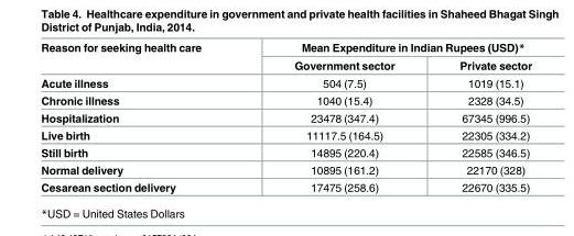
<table><thead><tr><td rowspan="2">Reason for seeking health care</td><td colspan="2">Mean Expenditure in Indian Rupees (USD)*</td></tr><tr><td>Government sector</td><td>Private sector</td></tr></thead><tbody><tr><td>Acute illness</td><td>504 (7.5)</td><td>1019 (15.1)</td></tr><tr><td>Chronic illness</td><td>1040 (15.4)</td><td>2328 (34.5)</td></tr><tr><td>Hospitalization</td><td>23478 (347.4)</td><td>67345 (996.5)</td></tr><tr><td>Live birth</td><td>11117.5 (164.5)</td><td>22305 (334.2)</td></tr><tr><td>Still birth</td><td>14895 (220.4)</td><td>22585 (346.5)</td></tr><tr><td>Normal delivery</td><td>10895 (161.2)</td><td>22170 (328)</td></tr><tr><td>Cesarean section delivery</td><td>17475 (258.6)</td><td>22670 (335.5)</td></tr></tbody></table>